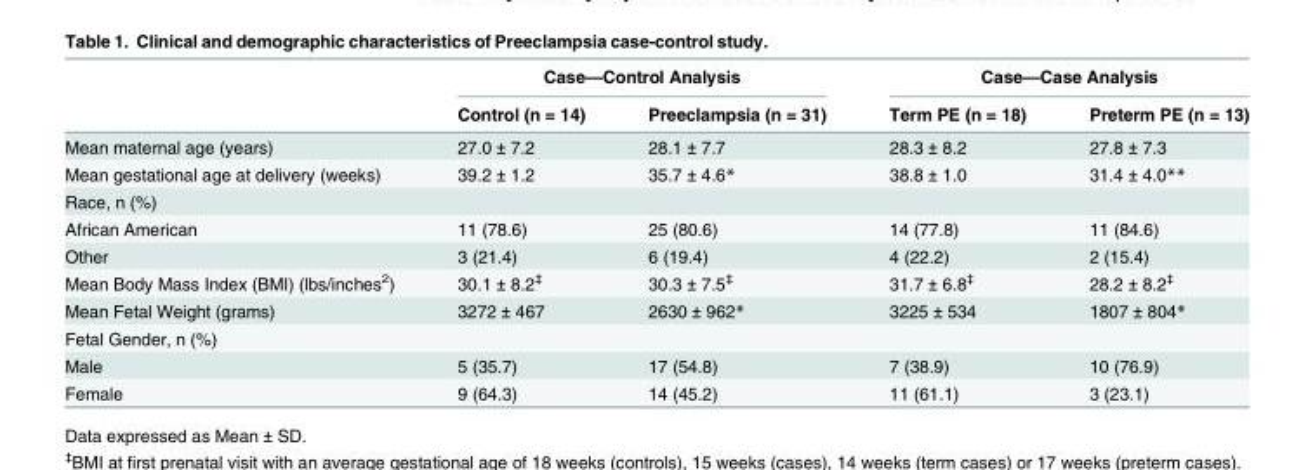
<table><thead><tr><td rowspan="2"></td><td colspan="2">Case—Control Analysis</td><td colspan="2">Case—Case Analysis</td></tr><tr><td>Control (n = 14)</td><td>Preeclampsia (n = 31)</td><td>Term PE (n = 18)</td><td>Preterm PE (n = 13)</td></tr></thead><tbody><tr><td>Mean maternal age (years)</td><td>27.0 ± 7.2</td><td>28.1 ± 7.7</td><td>28.3 ± 8.2</td><td>27.8 ± 7.3</td></tr><tr><td>Mean gestational age at delivery (weeks)</td><td>39.2 ± 1.2</td><td>35.7 ± 4.6*</td><td>38.8 ± 1.0</td><td>31.4 ± 4.0**</td></tr><tr><td colspan="5">Race, n (%)</td></tr><tr><td>African American</td><td>11 (78.6)</td><td>25 (80.6)</td><td>14 (77.8)</td><td>11 (84.6)</td></tr><tr><td>Other</td><td>3 (21.4)</td><td>6 (19.4)</td><td>4 (22.2)</td><td>2 (15.4)</td></tr><tr><td>Mean Body Mass Index (BMI) (lbs/inches<sup>2</sup>)</td><td>30.1 ± 8.2<sup>‡</sup></td><td>30.3 ± 7.5<sup>‡</sup></td><td>31.7 ± 6.8<sup>‡</sup></td><td>28.2 ± 8.2<sup>‡</sup></td></tr><tr><td>Mean Fetal Weight (grams)</td><td>3272 ± 467</td><td>2630 ± 962*</td><td>3225 ± 534</td><td>1807 ± 804*</td></tr><tr><td colspan="5">Fetal Gender, n (%)</td></tr><tr><td>Male</td><td>5 (35.7)</td><td>17 (54.8)</td><td>7 (38.9)</td><td>10 (76.9)</td></tr><tr><td>Female</td><td>9 (64.3)</td><td>14 (45.2)</td><td>11 (61.1)</td><td>3 (23.1)</td></tr></tbody></table>